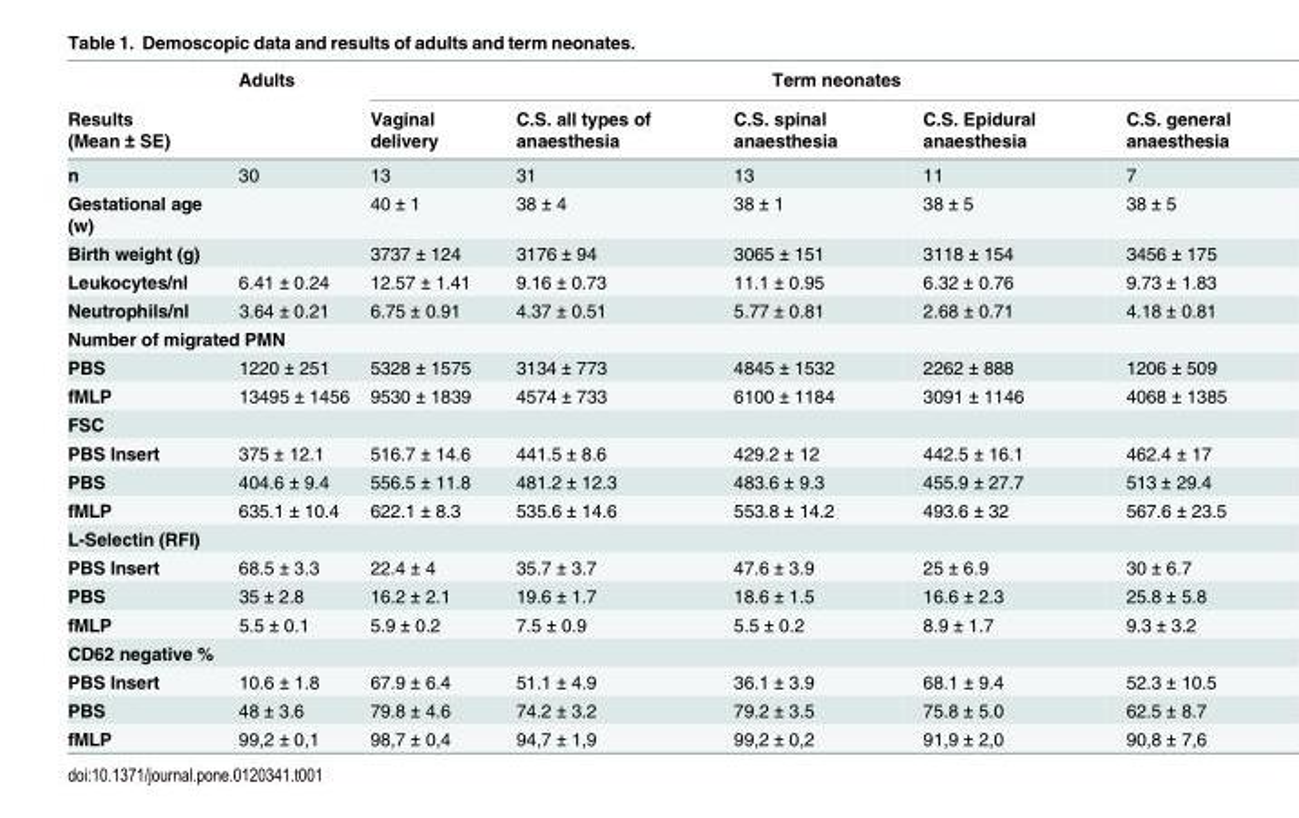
<table><thead><tr><td rowspan="2">Results (Mean ± SE)</td><td rowspan="2">Adults</td><td colspan="5">Term neonates</td></tr><tr><td>Vaginal delivery</td><td>C.S. all types of anaesthesia</td><td>C.S. spinal anaesthesia</td><td>C.S. Epidural anaesthesia</td><td>C.S. general anaesthesia</td></tr></thead><tbody><tr><td>n</td><td>30</td><td>13</td><td>31</td><td>13</td><td>11</td><td>7</td></tr><tr><td>Gestational age (w)</td><td></td><td>40 ± 1</td><td>38 ± 4</td><td>38 ± 1</td><td>38 ± 5</td><td>38 ± 5</td></tr><tr><td>Birth weight (g)</td><td></td><td>3737 ± 124</td><td>3176 ± 94</td><td>3065 ± 151</td><td>3118 ± 154</td><td>3456 ± 175</td></tr><tr><td>Leukocytes/nl</td><td>6.41 ± 0.24</td><td>12.57 ± 1.41</td><td>9.16 ± 0.73</td><td>11.1 ± 0.95</td><td>6.32 ± 0.76</td><td>9.73 ± 1.83</td></tr><tr><td>Neutrophils/nl</td><td>3.64 ± 0.21</td><td>6.75 ± 0.91</td><td>4.37 ± 0.51</td><td>5.77 ± 0.81</td><td>2.68 ± 0.71</td><td>4.18 ± 0.81</td></tr><tr><td colspan="7">Number of migrated PMN</td></tr><tr><td>PBS</td><td>1220 ± 251</td><td>5328 ± 1575</td><td>3134 ± 773</td><td>4845 ± 1532</td><td>2262 ± 888</td><td>1206 ± 509</td></tr><tr><td>fMLP</td><td>13495 ± 1456</td><td>9530 ± 1839</td><td>4574 ± 733</td><td>6100 ± 1184</td><td>3091 ± 1146</td><td>4068 ± 1385</td></tr><tr><td colspan="7">FSC</td></tr><tr><td>PBS Insert</td><td>375 ± 12.1</td><td>516.7 ± 14.6</td><td>441.5 ± 8.6</td><td>429.2 ± 12</td><td>442.5 ± 16.1</td><td>462.4 ± 17</td></tr><tr><td>PBS</td><td>404.6 ± 9.4</td><td>556.5 ± 11.8</td><td>481.2 ± 12.3</td><td>483.6 ± 9.3</td><td>455.9 ± 27.7</td><td>513 ± 29.4</td></tr><tr><td>fMLP</td><td>635.1 ± 10.4</td><td>622.1 ± 8.3</td><td>535.6 ± 14.6</td><td>553.8 ± 14.2</td><td>493.6 ± 32</td><td>567.6 ± 23.5</td></tr><tr><td colspan="7">L-Selectin (RFI)</td></tr><tr><td>PBS Insert</td><td>68.5 ± 3.3</td><td>22.4 ± 4</td><td>35.7 ± 3.7</td><td>47.6 ± 3.9</td><td>25 ± 6.9</td><td>30 ± 6.7</td></tr><tr><td>PBS</td><td>35 ± 2.8</td><td>16.2 ± 2.1</td><td>19.6 ± 1.7</td><td>18.6 ± 1.5</td><td>16.6 ± 2.3</td><td>25.8 ± 5.8</td></tr><tr><td>fMLP</td><td>5.5 ± 0.1</td><td>5.9 ± 0.2</td><td>7.5 ± 0.9</td><td>5.5 ± 0.2</td><td>8.9 ± 1.7</td><td>9.3 ± 3.2</td></tr><tr><td colspan="7">CD62 negative %</td></tr><tr><td>PBS Insert</td><td>10.6 ± 1.8</td><td>67.9 ± 6.4</td><td>51.1 ± 4.9</td><td>36.1 ± 3.9</td><td>68.1 ± 9.4</td><td>52.3 ± 10.5</td></tr><tr><td>PBS</td><td>48 ± 3.6</td><td>79.8 ± 4.6</td><td>74.2 ± 3.2</td><td>79.2 ± 3.5</td><td>75.8 ± 5.0</td><td>62.5 ± 8.7</td></tr><tr><td>fMLP</td><td>99,2 ± 0,1</td><td>98,7 ± 0,4</td><td>94,7 ± 1,9</td><td>99,2 ± 0,2</td><td>91,9 ± 2,0</td><td>90,8 ± 7,6</td></tr></tbody></table>